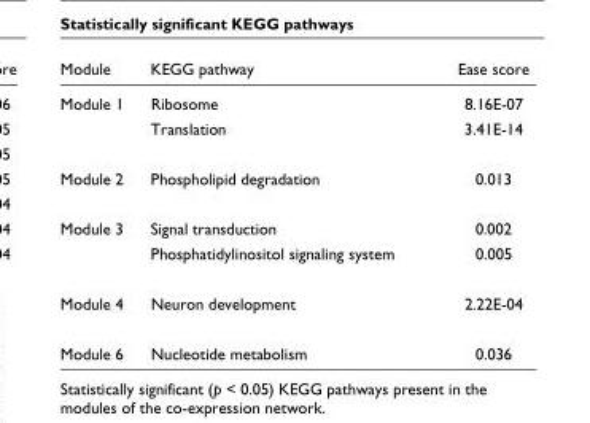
<table><thead><tr><td>Module</td><td>KEGG pathway</td><td>Ease score</td></tr></thead><tbody><tr><td rowspan="2">Module 1</td><td>Ribosome</td><td>8.16E-07</td></tr><tr><td>Translation</td><td>3.41E-14</td></tr><tr><td>Module 2</td><td>Phospholipid degradation</td><td>0.013</td></tr><tr><td rowspan="2">Module 3</td><td>Signal transduction</td><td>0.002</td></tr><tr><td>Phosphatidylinositol signaling system</td><td>0.005</td></tr><tr><td>Module 4</td><td>Neuron development</td><td>2.22E-04</td></tr><tr><td>Module 6</td><td>Nucleotide metabolism</td><td>0.036</td></tr></tbody></table>